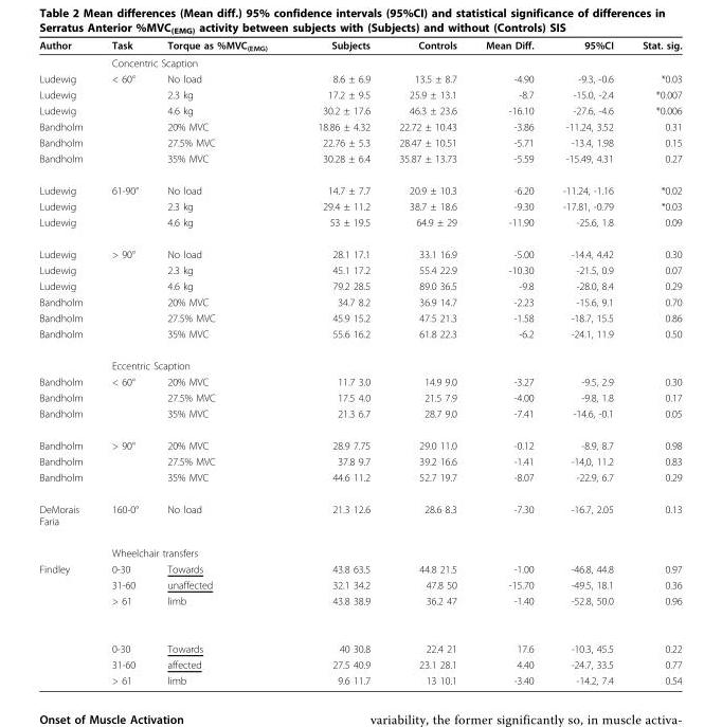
<table><thead><tr><td>Author</td><td>Task</td><td>Torque as %MVC<sub>(EMG)</sub></td><td>Subjects</td><td>Controls</td><td>Mean Diff.</td><td>95%CI</td><td>Stat. sig.</td></tr></thead><tbody><tr><td></td><td colspan="2">Concentric Scaption</td><td></td><td></td><td></td><td></td><td></td></tr><tr><td>Ludewig</td><td>&lt; 60°</td><td>No load</td><td>8.6 ± 6.9</td><td>13.5 ± 8.7</td><td>-4.90</td><td>-9.3, -0.6</td><td>*0.03</td></tr><tr><td>Ludewig</td><td></td><td>2.3 kg</td><td>17.2 ± 9.5</td><td>25.9 ± 13.1</td><td>-8.7</td><td>-15.0, -2.4</td><td>*0.007</td></tr><tr><td>Ludewig</td><td></td><td>4.6 kg</td><td>30.2 ± 17.6</td><td>46.3 ± 23.6</td><td>-16.10</td><td>-27.6, -4.6</td><td>*0.006</td></tr><tr><td>Bandholm</td><td></td><td>20% MVC</td><td>18.86 ± 4.32</td><td>22.72 ± 10.43</td><td>-3.86</td><td>-11.24, 3.52</td><td>0.31</td></tr><tr><td>Bandholm</td><td></td><td>27.5% MVC</td><td>22.76 ± 5.3</td><td>28.47 ± 10.51</td><td>-5.71</td><td>-13.4, 1.98</td><td>0.15</td></tr><tr><td>Bandholm</td><td></td><td>35% MVC</td><td>30.28 ± 6.4</td><td>35.87 ± 13.73</td><td>-5.59</td><td>-15.49, 4.31</td><td>0.27</td></tr><tr><td>Ludewig</td><td>61-90°</td><td>No load</td><td>14.7 ± 7.7</td><td>20.9 ± 10.3</td><td>-6.20</td><td>-11.24, -1.16</td><td>*0.02</td></tr><tr><td>Ludewig</td><td></td><td>2.3 kg</td><td>29.4 ± 11.2</td><td>38.7 ± 18.6</td><td>-9.30</td><td>-17.81, -0.79</td><td>*0.03</td></tr><tr><td>Ludewig</td><td></td><td>4.6 kg</td><td>53 ± 19.5</td><td>64.9 ± 29</td><td>-11.90</td><td>-25.6, 1.8</td><td>0.09</td></tr><tr><td>Ludewig</td><td>&gt; 90°</td><td>No load</td><td>28.1 17.1</td><td>33.1 16.9</td><td>-5.00</td><td>-14.4, 4.42</td><td>0.30</td></tr><tr><td>Ludewig</td><td></td><td>2.3 kg</td><td>45.1 17.2</td><td>55.4 22.9</td><td>-10.30</td><td>-21.5, 0.9</td><td>0.07</td></tr><tr><td>Ludewig</td><td></td><td>4.6 kg</td><td>79.2 28.5</td><td>89.0 36.5</td><td>-9.8</td><td>-28.0, 8.4</td><td>0.29</td></tr><tr><td>Bandholm</td><td></td><td>20% MVC</td><td>34.7 8.2</td><td>36.9 14.7</td><td>-2.23</td><td>-15.6, 9.1</td><td>0.70</td></tr><tr><td>Bandholm</td><td></td><td>27.5% MVC</td><td>45.9 15.2</td><td>47.5 21.3</td><td>-1.58</td><td>-18.7, 15.5</td><td>0.86</td></tr><tr><td rowspan="2">Bandholm</td><td></td><td>35% MVC</td><td>55.6 16.2</td><td>61.8 22.3</td><td>-6.2</td><td>-24.1, 11.9</td><td>0.50</td></tr><tr><td colspan="2">Eccentric Scaption</td><td></td><td></td><td></td><td></td><td></td></tr><tr><td>Bandholm</td><td>&lt; 60°</td><td>20% MVC</td><td>11.7 3.0</td><td>14.9 9.0</td><td>-3.27</td><td>-9.5, 2.9</td><td>0.30</td></tr><tr><td>Bandholm</td><td></td><td>27.5% MVC</td><td>17.5 4.0</td><td>21.5 7.9</td><td>-4.00</td><td>-9.8, 1.8</td><td>0.17</td></tr><tr><td>Bandholm</td><td></td><td>35% MVC</td><td>21.3 6.7</td><td>28.7 9.0</td><td>-7.41</td><td>-14.6, -0.1</td><td>0.05</td></tr><tr><td>Bandholm</td><td>&gt; 90°</td><td>20% MVC</td><td>28.9 7.75</td><td>29.0 11.0</td><td>-0.12</td><td>-8.9, 8.7</td><td>0.98</td></tr><tr><td>Bandholm</td><td></td><td>27.5% MVC</td><td>37.8 9.7</td><td>39.2 16.6</td><td>-1.41</td><td>-14,0, 11.2</td><td>0.83</td></tr><tr><td>Bandholm</td><td></td><td>35% MVC</td><td>44.6 11.2</td><td>52.7 19.7</td><td>-8.07</td><td>-22.9, 6.7</td><td>0.29</td></tr><tr><td rowspan="2">DeMorais Faria</td><td>160-0°</td><td>No load</td><td>21.3 12.6</td><td>28.6 8.3</td><td>-7.30</td><td>-16.7, 2.05</td><td>0.13</td></tr><tr><td colspan="2">Wheelchair transfers</td><td></td><td></td><td></td><td></td><td></td></tr><tr><td rowspan="6">Findley</td><td>0-30</td><td>Towards</td><td>43.8 63.5</td><td>44.8 21.5</td><td>-1.00</td><td>-46.8, 44.8</td><td>0.97</td></tr><tr><td>31-60</td><td>unaffected</td><td>32.1 34.2</td><td>47.8 50</td><td>-15.70</td><td>-49.5, 18.1</td><td>0.36</td></tr><tr><td>&gt; 61</td><td>limb</td><td>43.8 38.9</td><td>36.2 47</td><td>-1.40</td><td>-52.8, 50.0</td><td>0.96</td></tr><tr><td>0-30</td><td>Towards</td><td>40 30.8</td><td>22.4 21</td><td>17.6</td><td>-10.3, 45.5</td><td>0.22</td></tr><tr><td>31-60</td><td>affected</td><td>27.5 40.9</td><td>23.1 28.1</td><td>4.40</td><td>-24.7, 33.5</td><td>0.77</td></tr><tr><td>&gt; 61</td><td>limb</td><td>9.6 11.7</td><td>13 10.1</td><td>-3.40</td><td>-14.2, 7.4</td><td>0.54</td></tr></tbody></table>